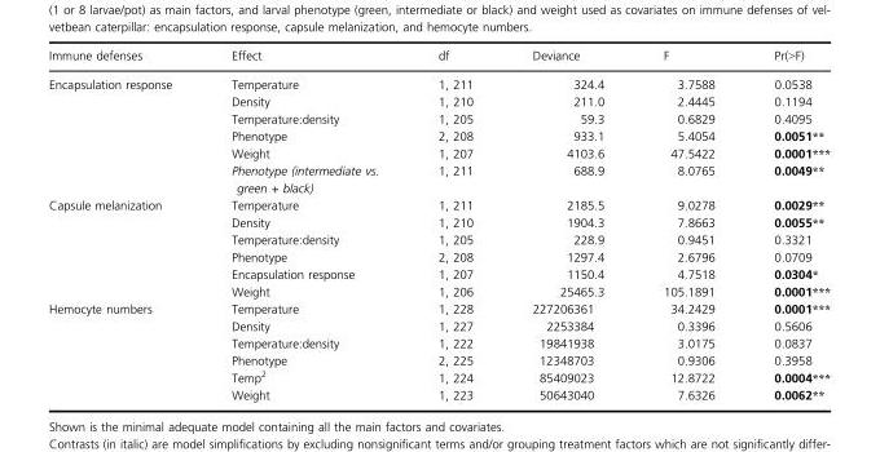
<table><thead><tr><td>Immune defenses</td><td>Effect</td><td>df</td><td>Deviance</td><td>F</td><td>Pr(&gt;F)</td></tr></thead><tbody><tr><td rowspan="6">Encapsulation response</td><td>Temperature</td><td>1, 211</td><td>324.4</td><td>3.7588</td><td>0.0538</td></tr><tr><td>Density</td><td>1, 210</td><td>211.0</td><td>2.4445</td><td>0.1194</td></tr><tr><td>Temperature:density</td><td>1, 205</td><td>59.3</td><td>0.6829</td><td>0.4095</td></tr><tr><td>Phenotype</td><td>2, 208</td><td>933.1</td><td>5.4054</td><td>0.0051**</td></tr><tr><td>Weight</td><td>1, 207</td><td>4103.6</td><td>47.5422</td><td>0.0001***</td></tr><tr><td>Phenotype (intermediate vs. green + black)</td><td>1, 211</td><td>688.9</td><td>8.0765</td><td>0.0049**</td></tr><tr><td rowspan="6">Capsule melanization</td><td>Temperature</td><td>1, 211</td><td>2185.5</td><td>9.0278</td><td>0.0029**</td></tr><tr><td>Density</td><td>1, 210</td><td>1904.3</td><td>7.8663</td><td>0.0055**</td></tr><tr><td>Temperature:density</td><td>1, 205</td><td>228.9</td><td>0.9451</td><td>0.3321</td></tr><tr><td>Phenotype</td><td>2, 208</td><td>1297.4</td><td>2.6796</td><td>0.0709</td></tr><tr><td>Encapsulation response</td><td>1, 207</td><td>1150.4</td><td>4.7518</td><td>0.0304*</td></tr><tr><td>Weight</td><td>1, 206</td><td>25465.3</td><td>105.1891</td><td>0.0001***</td></tr><tr><td rowspan="6">Hemocyte numbers</td><td>Temperature</td><td>1, 228</td><td>227206361</td><td>34.2429</td><td>0.0001***</td></tr><tr><td>Density</td><td>1, 227</td><td>2253384</td><td>0.3396</td><td>0.5606</td></tr><tr><td>Temperature:density</td><td>1, 222</td><td>19841938</td><td>3.0175</td><td>0.0837</td></tr><tr><td>Phenotype</td><td>2, 225</td><td>12348703</td><td>0.9306</td><td>0.3958</td></tr><tr><td>Temp<sup>2</sup></td><td>1, 224</td><td>85409023</td><td>12.8722</td><td>0.0004***</td></tr><tr><td>Weight</td><td>1, 223</td><td>50643040</td><td>7.6326</td><td>0.0062**</td></tr></tbody></table>